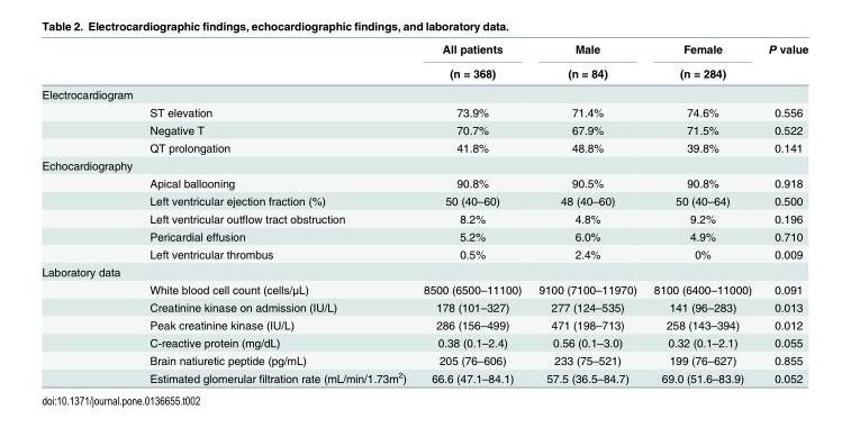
<table><thead><tr><td rowspan="2"></td><td rowspan="2"></td><td rowspan="2">All patients (n = 368)</td><td rowspan="2">Male (n = 84)</td><td rowspan="2">Female (n = 284)</td><td rowspan="2">P value</td></tr><tr></tr></thead><tbody><tr><td colspan="6">Electrocardiogram</td></tr><tr><td></td><td>ST elevation</td><td>73.9%</td><td>71.4%</td><td>74.6%</td><td>0.556</td></tr><tr><td></td><td>Negative T</td><td>70.7%</td><td>67.9%</td><td>71.5%</td><td>0.522</td></tr><tr><td></td><td>QT prolongation</td><td>41.8%</td><td>48.8%</td><td>39.8%</td><td>0.141</td></tr><tr><td colspan="6">Echocardiography</td></tr><tr><td></td><td>Apical ballooning</td><td>90.8%</td><td>90.5%</td><td>90.8%</td><td>0.918</td></tr><tr><td></td><td>Left ventricular ejection fraction (%)</td><td>50 (40–60)</td><td>48 (40–60)</td><td>50 (40–64)</td><td>0.500</td></tr><tr><td></td><td>Left ventricular outflow tract obstruction</td><td>8.2%</td><td>4.8%</td><td>9.2%</td><td>0.196</td></tr><tr><td></td><td>Pericardial effusion</td><td>5.2%</td><td>6.0%</td><td>4.9%</td><td>0.710</td></tr><tr><td></td><td>Left ventricular thrombus</td><td>0.5%</td><td>2.4%</td><td>0%</td><td>0.009</td></tr><tr><td colspan="6">Laboratory data</td></tr><tr><td></td><td>White blood cell count (cells/μL)</td><td>8500 (6500–11100)</td><td>9100 (7100–11970)</td><td>8100 (6400–11000)</td><td>0.091</td></tr><tr><td></td><td>Creatinine kinase on admission (IU/L)</td><td>178 (101–327)</td><td>277 (124–535)</td><td>141 (96–283)</td><td>0.013</td></tr><tr><td></td><td>Peak creatinine kinase (IU/L)</td><td>286 (156–499)</td><td>471 (198–713)</td><td>258 (143–394)</td><td>0.012</td></tr><tr><td></td><td>C-reactive protein (mg/dL)</td><td>0.38 (0.1–2.4)</td><td>0.56 (0.1–3.0)</td><td>0.32 (0.1–2.1)</td><td>0.055</td></tr><tr><td></td><td>Brain natiuretic peptide (pg/mL)</td><td>205 (76–606)</td><td>233 (75–521)</td><td>199 (76–627)</td><td>0.855</td></tr><tr><td></td><td>Estimated glomerular filtration rate (mL/min/1.73m<sup>2</sup>)</td><td>66.6 (47.1–84.1)</td><td>57.5 (36.5–84.7)</td><td>69.0 (51.6–83.9)</td><td>0.052</td></tr></tbody></table>